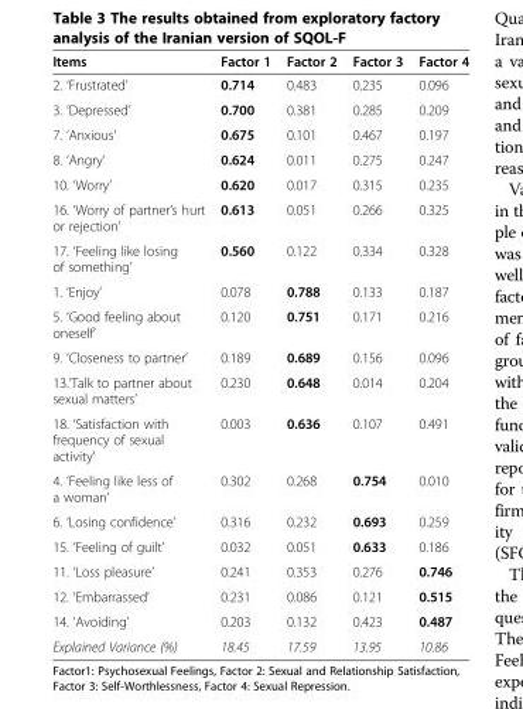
<table><thead><tr><td>Items</td><td>Factor 1</td><td>Factor 2</td><td>Factor 3</td><td>Factor 4</td></tr></thead><tbody><tr><td>2. ‘Frustrated’</td><td>0.714</td><td>0.483</td><td>0.235</td><td>0.096</td></tr><tr><td>3. ‘Depressed’</td><td>0.700</td><td>0.381</td><td>0.285</td><td>0.209</td></tr><tr><td>7. ‘Anxious’</td><td>0.675</td><td>0.101</td><td>0.467</td><td>0.197</td></tr><tr><td>8. ‘Angry’</td><td>0.624</td><td>0.011</td><td>0.275</td><td>0.247</td></tr><tr><td>10. ‘Worry’</td><td>0.620</td><td>0.017</td><td>0.315</td><td>0.235</td></tr><tr><td>16. ‘Worry of partner’s hurt or rejection’</td><td>0.613</td><td>0.051</td><td>0.266</td><td>0.325</td></tr><tr><td>17. ‘Feeling like losing of something’</td><td>0.560</td><td>0.122</td><td>0.334</td><td>0.328</td></tr><tr><td>1. ‘Enjoy’</td><td>0.078</td><td>0.788</td><td>0.133</td><td>0.187</td></tr><tr><td>5. ‘Good feeling about oneself’</td><td>0.120</td><td>0.751</td><td>0.171</td><td>0.216</td></tr><tr><td>9. ‘Closeness to partner’</td><td>0.189</td><td>0.689</td><td>0.156</td><td>0.096</td></tr><tr><td>13.’Talk to partner about sexual matters’</td><td>0.230</td><td>0.648</td><td>0.014</td><td>0.204</td></tr><tr><td>18. ‘Satisfaction with frequency of sexual activity’</td><td>0.003</td><td>0.636</td><td>0.107</td><td>0.491</td></tr><tr><td>4. ‘Feeling like less of a woman’</td><td>0.302</td><td>0.268</td><td>0.754</td><td>0.010</td></tr><tr><td>6. ‘Losing confidence’</td><td>0.316</td><td>0.232</td><td>0.693</td><td>0.259</td></tr><tr><td>15. ‘Feeling of guilt’</td><td>0.032</td><td>0.051</td><td>0.633</td><td>0.186</td></tr><tr><td>11. ‘Loss pleasure’</td><td>0.241</td><td>0.353</td><td>0.276</td><td>0.746</td></tr><tr><td>12. ‘Embarrassed’</td><td>0.231</td><td>0.086</td><td>0.121</td><td>0.515</td></tr><tr><td>14. ‘Avoiding’</td><td>0.203</td><td>0.132</td><td>0.423</td><td>0.487</td></tr><tr><td>Explained Variance (%)</td><td>18.45</td><td>17.59</td><td>13.95</td><td>10.86</td></tr></tbody></table>